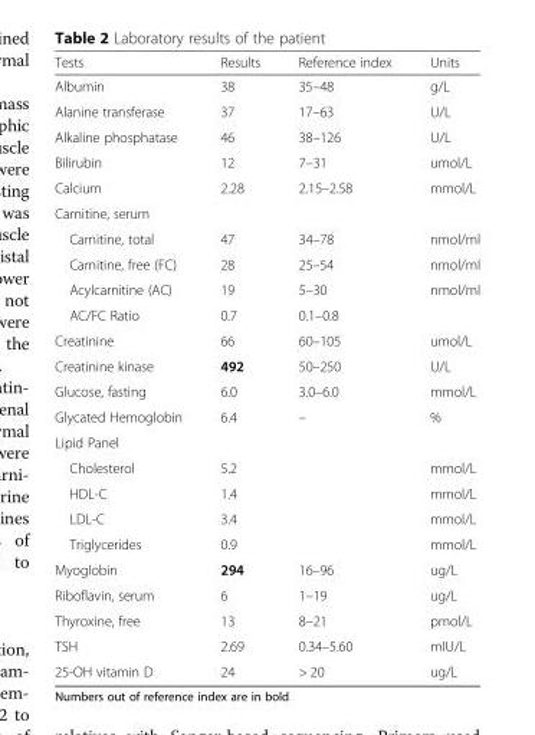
<table><thead><tr><td>Tests</td><td>Results</td><td>Reference index</td><td>Units</td></tr></thead><tbody><tr><td>Albumin</td><td>38</td><td>35–48</td><td>g/L</td></tr><tr><td>Alanine transferase</td><td>37</td><td>17–63</td><td>U/L</td></tr><tr><td>Alkaline phosphatase</td><td>46</td><td>38–126</td><td>U/L</td></tr><tr><td>Bilirubin</td><td>12</td><td>7–31</td><td>umol/L</td></tr><tr><td>Calcium</td><td>2.28</td><td>2.15–2.58</td><td>mmol/L</td></tr><tr><td colspan="4">Carnitine, serum</td></tr><tr><td>Carnitine, total</td><td>47</td><td>34–78</td><td>nmol/ml</td></tr><tr><td>Carnitine, free (FC)</td><td>28</td><td>25–54</td><td>nmol/ml</td></tr><tr><td>Acylcarnitine (AC)</td><td>19</td><td>5–30</td><td>nmol/ml</td></tr><tr><td>AC/FC Ratio</td><td>0.7</td><td>0.1–0.8</td><td></td></tr><tr><td>Creatinine</td><td>66</td><td>60–105</td><td>umol/L</td></tr><tr><td>Creatinine kinase</td><td>492</td><td>50–250</td><td>U/L</td></tr><tr><td>Glucose, fasting</td><td>6.0</td><td>3.0–6.0</td><td>mmol/L</td></tr><tr><td>Glycated Hemoglobin</td><td>6.4</td><td>–</td><td>%</td></tr><tr><td colspan="4">Lipid Panel</td></tr><tr><td>Cholesterol</td><td>5.2</td><td></td><td>mmol/L</td></tr><tr><td>HDL-C</td><td>1.4</td><td></td><td>mmol/L</td></tr><tr><td>LDL-C</td><td>3.4</td><td></td><td>mmol/L</td></tr><tr><td>Triglycerides</td><td>0.9</td><td></td><td>mmol/L</td></tr><tr><td>Myoglobin</td><td>294</td><td>16–96</td><td>ug/L</td></tr><tr><td>Riboflavin, serum</td><td>6</td><td>1–19</td><td>ug/L</td></tr><tr><td>Thyroxine, free</td><td>13</td><td>8–21</td><td>pmol/L</td></tr><tr><td>TSH</td><td>2.69</td><td>0.34–5.60</td><td>mIU/L</td></tr><tr><td>25-OH vitamin D</td><td>24</td><td>&gt; 20</td><td>ug/L</td></tr></tbody></table>